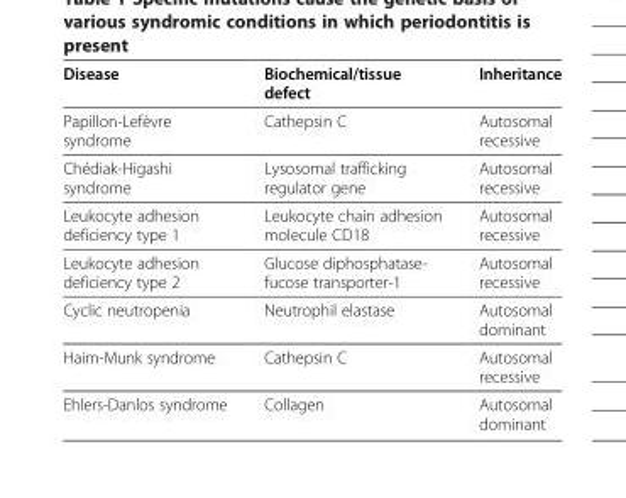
<table><thead><tr><td>Disease</td><td>Biochemical/tissue defect</td><td>Inheritance</td></tr></thead><tbody><tr><td>Papillon-Lefèvre syndrome</td><td>Cathepsin C</td><td>Autosomal recessive</td></tr><tr><td>Chédiak-Higashi syndrome</td><td>Lysosomal trafficking regulator gene</td><td>Autosomal recessive</td></tr><tr><td>Leukocyte adhesion deficiency type 1</td><td>Leukocyte chain adhesion molecule CD18</td><td>Autosomal recessive</td></tr><tr><td>Leukocyte adhesion deficiency type 2</td><td>Glucose diphosphatase- fucose transporter-1</td><td>Autosomal recessive</td></tr><tr><td>Cyclic neutropenia</td><td>Neutrophil elastase</td><td>Autosomal dominant</td></tr><tr><td>Haim-Munk syndrome</td><td>Cathepsin C</td><td>Autosomal recessive</td></tr><tr><td>Ehlers-Danlos syndrome</td><td>Collagen</td><td>Autosomal dominant</td></tr></tbody></table>